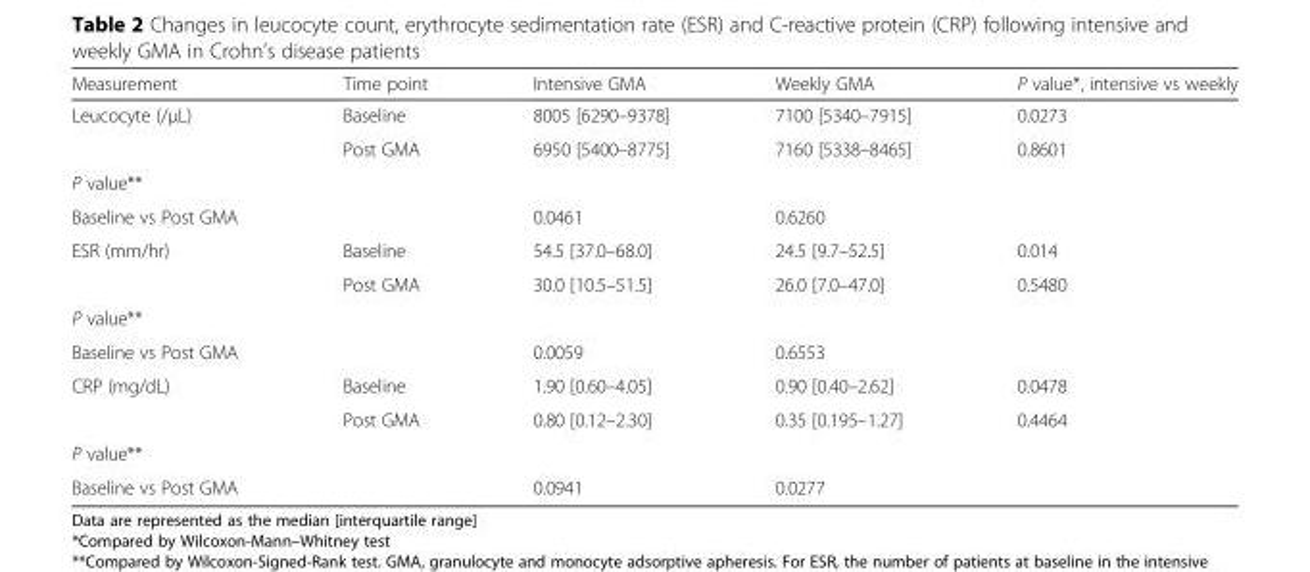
<table><thead><tr><td>Measurement</td><td>Time point</td><td>Intensive GMA</td><td>Weekly GMA</td><td>P value*, intensive vs weekly</td></tr></thead><tbody><tr><td rowspan="2">Leucocyte (/μL)</td><td>Baseline</td><td>8005 [6290–9378]</td><td>7100 [5340–7915]</td><td>0.0273</td></tr><tr><td>Post GMA</td><td>6950 [5400–8775]</td><td>7160 [5338–8465]</td><td>0.8601</td></tr><tr><td colspan="5">P value**</td></tr><tr><td>Baseline vs Post GMA</td><td></td><td>0.0461</td><td>0.6260</td><td></td></tr><tr><td rowspan="2">ESR (mm/hr)</td><td>Baseline</td><td>54.5 [37.0–68.0]</td><td>24.5 [9.7–52.5]</td><td>0.014</td></tr><tr><td>Post GMA</td><td>30.0 [10.5–51.5]</td><td>26.0 [7.0–47.0]</td><td>0.5480</td></tr><tr><td colspan="5">P value**</td></tr><tr><td>Baseline vs Post GMA</td><td></td><td>0.0059</td><td>0.6553</td><td></td></tr><tr><td rowspan="2">CRP (mg/dL)</td><td>Baseline</td><td>1.90 [0.60–4.05]</td><td>0.90 [0.40–2.62]</td><td>0.0478</td></tr><tr><td>Post GMA</td><td>0.80 [0.12–2.30]</td><td>0.35 [0.195–1.27]</td><td>0.4464</td></tr><tr><td colspan="5">P value**</td></tr><tr><td>Baseline vs Post GMA</td><td></td><td>0.0941</td><td>0.0277</td><td></td></tr></tbody></table>